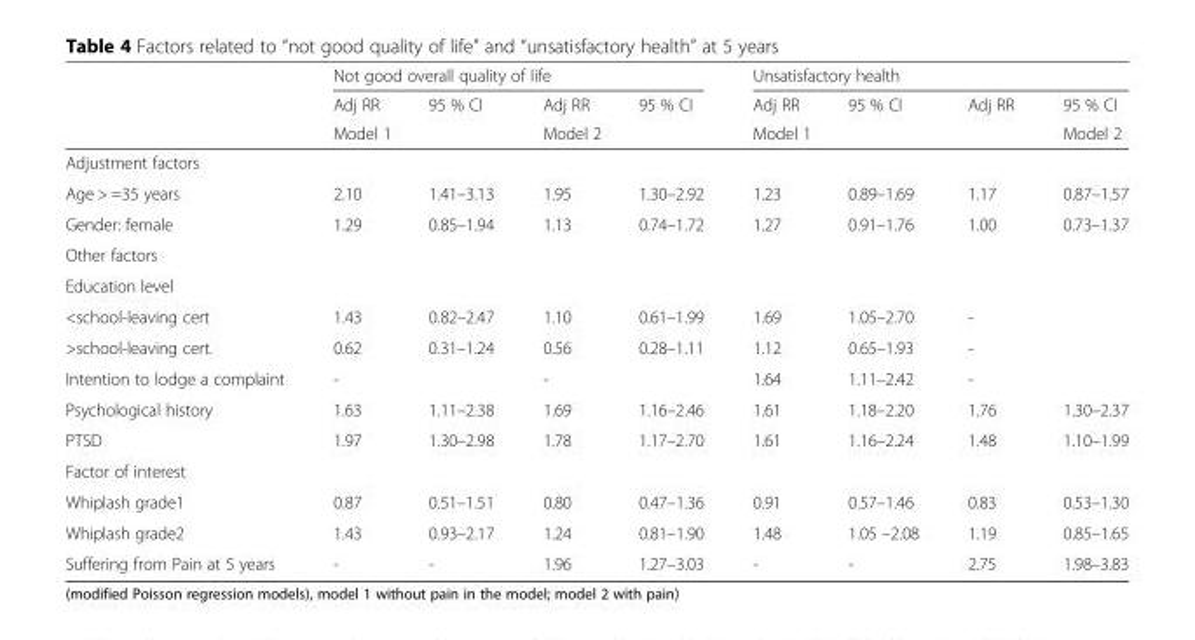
<table><thead><tr><td rowspan="3"></td><td colspan="4">Not good overall quality of life</td><td colspan="4">Unsatisfactory health</td></tr><tr><td>Adj RR</td><td>95 % CI</td><td>Adj RR</td><td>95 % CI</td><td>Adj RR</td><td>95 % CI</td><td>Adj RR</td><td rowspan="2">95 % CI Model 2</td></tr><tr><td colspan="2">Model 1</td><td colspan="2">Model 2</td><td colspan="3">Model 1</td></tr></thead><tbody><tr><td colspan="9">Adjustment factors</td></tr><tr><td>Age &gt; =35 years</td><td>2.10</td><td>1.41–3.13</td><td>1.95</td><td>1.30–2.92</td><td>1.23</td><td>0.89–1.69</td><td>1.17</td><td>0.87–1.57</td></tr><tr><td>Gender: female</td><td>1.29</td><td>0.85–1.94</td><td>1.13</td><td>0.74–1.72</td><td>1.27</td><td>0.91–1.76</td><td>1.00</td><td>0.73–1.37</td></tr><tr><td colspan="9">Other factors</td></tr><tr><td colspan="9">Education level</td></tr><tr><td>&lt;school-leaving cert</td><td>1.43</td><td>0.82–2.47</td><td>1.10</td><td>0.61–1.99</td><td>1.69</td><td>1.05–2.70</td><td>-</td><td></td></tr><tr><td>&gt;school-leaving cert.</td><td>0.62</td><td>0.31–1.24</td><td>0.56</td><td>0.28–1.11</td><td>1.12</td><td>0.65–1.93</td><td>-</td><td></td></tr><tr><td>Intention to lodge a complaint</td><td>-</td><td></td><td>-</td><td></td><td>1.64</td><td>1.11–2.42</td><td>-</td><td></td></tr><tr><td>Psychological history</td><td>1.63</td><td>1.11–2.38</td><td>1.69</td><td>1.16–2.46</td><td>1.61</td><td>1.18–2.20</td><td>1.76</td><td>1.30–2.37</td></tr><tr><td>PTSD</td><td>1.97</td><td>1.30–2.98</td><td>1.78</td><td>1.17–2.70</td><td>1.61</td><td>1.16–2.24</td><td>1.48</td><td>1.10–1.99</td></tr><tr><td colspan="9">Factor of interest</td></tr><tr><td>Whiplash grade1</td><td>0.87</td><td>0.51–1.51</td><td>0.80</td><td>0.47–1.36</td><td>0.91</td><td>0.57–1.46</td><td>0.83</td><td>0.53–1.30</td></tr><tr><td>Whiplash grade2</td><td>1.43</td><td>0.93–2.17</td><td>1.24</td><td>0.81–1.90</td><td>1.48</td><td>1.05 –2.08</td><td>1.19</td><td>0.85–1.65</td></tr><tr><td>Suffering from Pain at 5 years</td><td>-</td><td>-</td><td>1.96</td><td>1.27–3.03</td><td>-</td><td>-</td><td>2.75</td><td>1.98–3.83</td></tr></tbody></table>